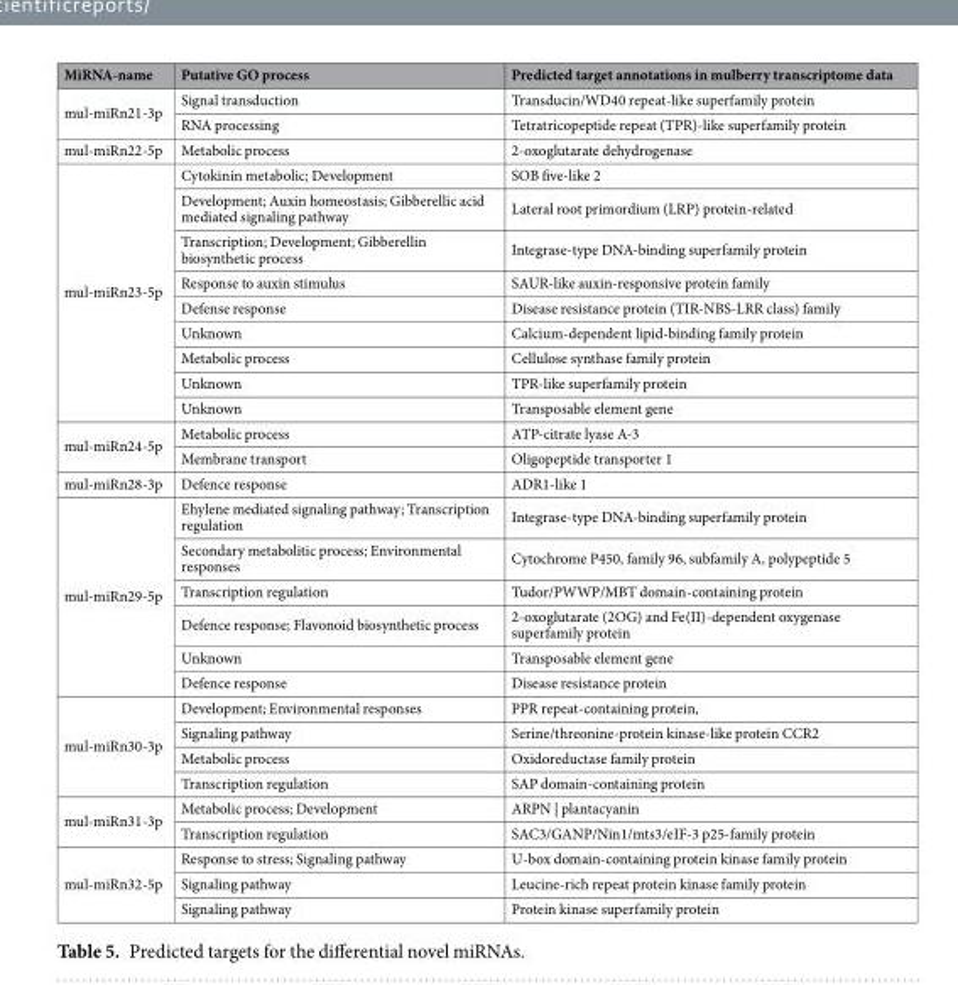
<table><thead><tr><td>MiRNA-name</td><td>Putative GO process</td><td>Predicted target annotations in mulberry transcriptome data</td></tr></thead><tbody><tr><td rowspan="2">mul-miRn21-3p</td><td>Signal transduction</td><td>Transducin/WD40 repeat-like superfamily protein</td></tr><tr><td>RNA processing</td><td>Tetratricopeptide repeat (TPR)-like superfamily protein</td></tr><tr><td>mul-miRn22-5p</td><td>Metabolic process</td><td>2-oxoglutarate dehydrogenase</td></tr><tr><td rowspan="9">mul-miRn23-5p</td><td>Cytokinin metabolic; Development</td><td>SOB five-like 2</td></tr><tr><td>Development; Auxin homeostasis; Gibberellic acid mediated signaling pathway</td><td>Lateral root primordium (LRP) protein-related</td></tr><tr><td>Transcription; Development; Gibberellin biosynthetic process</td><td>Integrase-type DNA-binding superfamily protein</td></tr><tr><td>Response to auxin stimulus</td><td>SAUR-like auxin-responsive protein family</td></tr><tr><td>Defense response</td><td>Disease resistance protein (TIR-NBS-LRR class) family</td></tr><tr><td>Unknown</td><td>Calcium-dependent lipid-binding family protein</td></tr><tr><td>Metabolic process</td><td>Cellulose synthase family protein</td></tr><tr><td>Unknown</td><td>TPR-like superfamily protein</td></tr><tr><td>Unknown</td><td>Transposable element gene</td></tr><tr><td rowspan="2">mul-miRn24-5p</td><td>Metabolic process</td><td>ATP-citrate lyase A-3</td></tr><tr><td>Membrane transport</td><td>Oligopeptide transporter 1</td></tr><tr><td>mul-miRn28-3p</td><td>Defence response</td><td>ADR1-like 1</td></tr><tr><td rowspan="6">mul-miRn29-5p</td><td>Ehylene mediated signaling pathway; Transcription regulation</td><td>Integrase-type DNA-binding superfamily protein</td></tr><tr><td>Secondary metabolitic process; Environmental responses</td><td>Cytochrome P450, family 96, subfamily A, polypeptide 5</td></tr><tr><td>Transcription regulation</td><td>Tudor/PWWP/MBT domain-containing protein</td></tr><tr><td>Defence response; Flavonoid biosynthetic process</td><td>2-oxoglutarate (2OG) and Fe(II)-dependent oxygenase superfamily protein</td></tr><tr><td>Unknown</td><td>Transposable element gene</td></tr><tr><td>Defence response</td><td>Disease resistance protein</td></tr><tr><td rowspan="4">mul-miRn30-3p</td><td>Development; Environmental responses</td><td>PPR repeat-containing protein,</td></tr><tr><td>Signaling pathway</td><td>Serine/threonine-protein kinase-like protein CCR2</td></tr><tr><td>Metabolic process</td><td>Oxidoreductase family protein</td></tr><tr><td>Transcription regulation</td><td>SAP domain-containing protein</td></tr><tr><td rowspan="2">mul-miRn31-3p</td><td>Metabolic process; Development</td><td>ARPN | plantacyanin</td></tr><tr><td>Transcription regulation</td><td>SAC3/GANP/Nin1/mts3/eIF-3 p25-family protein</td></tr><tr><td rowspan="3">mul-miRn32-5p</td><td>Response to stress; Signaling pathway</td><td>U-box domain-containing protein kinase family protein</td></tr><tr><td>Signaling pathway</td><td>Leucine-rich repeat protein kinase family protein</td></tr><tr><td>Signaling pathway</td><td>Protein kinase superfamily protein</td></tr></tbody></table>